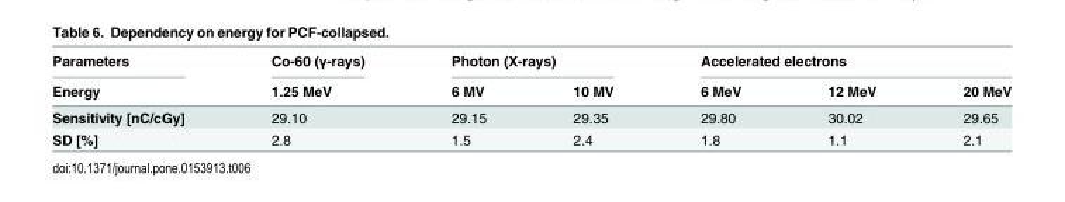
<table><thead><tr><td rowspan="2">Parameters Energy</td><td rowspan="2">Co-60 (γ-rays) 1.25 MeV</td><td colspan="2">Photon (X-rays)</td><td colspan="3">Accelerated electrons</td></tr><tr><td>6 MV</td><td>10 MV</td><td>6 MeV</td><td>12 MeV</td><td>20 MeV</td></tr></thead><tbody><tr><td>Sensitivity [nC/cGy]</td><td>29.10</td><td>29.15</td><td>29.35</td><td>29.80</td><td>30.02</td><td>29.65</td></tr><tr><td>SD [%]</td><td>2.8</td><td>1.5</td><td>2.4</td><td>1.8</td><td>1.1</td><td>2.1</td></tr></tbody></table>